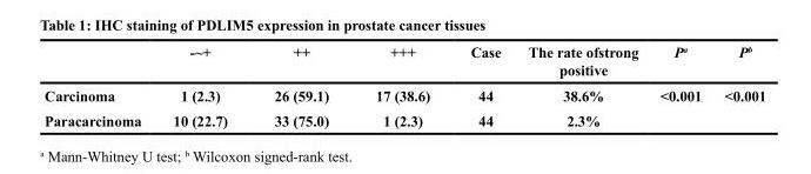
<table><thead><tr><td></td><td>-~+</td><td>++</td><td>+++</td><td>Case</td><td>The rate ofstrong positive</td><td>P<sup>a</sup></td><td>P<sup>b</sup></td></tr></thead><tbody><tr><td>Carcinoma</td><td>1 (2.3)</td><td>26 (59.1)</td><td>17 (38.6)</td><td>44</td><td>38.6%</td><td>&lt;0.001</td><td>&lt;0.001</td></tr><tr><td>Paracarcinoma</td><td>10 (22.7)</td><td>33 (75.0)</td><td>1 (2.3)</td><td>44</td><td>2.3%</td><td></td><td></td></tr></tbody></table>